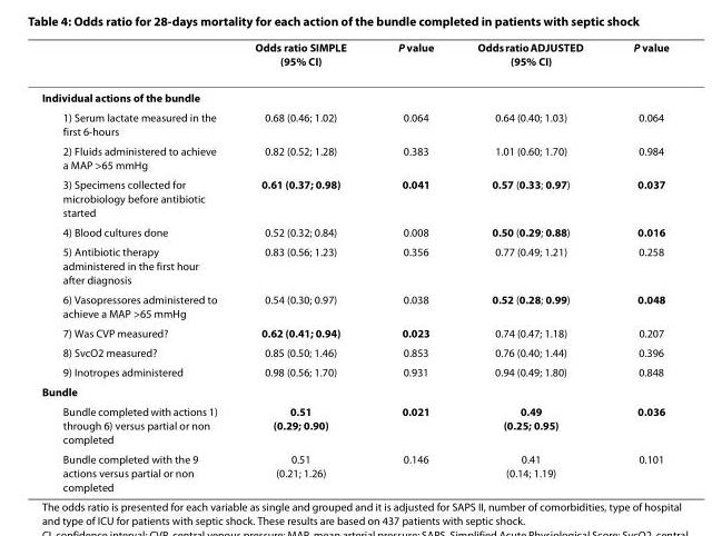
<table><thead><tr><td></td><td>Odds ratio SIMPLE (95% CI)</td><td>P value</td><td>Odds ratio ADJUSTED (95% CI)</td><td>P value</td></tr></thead><tbody><tr><td colspan="5">Individual actions of the bundle</td></tr><tr><td>1) Serum lactate measured in the first 6-hours</td><td>0.68 (0.46; 1.02)</td><td>0.064</td><td>0.64 (0.40; 1.03)</td><td>0.064</td></tr><tr><td>2) Fluids administered to achieve a MAP &gt;65 mmHg</td><td>0.82 (0.52; 1.28)</td><td>0.383</td><td>1.01 (0.60; 1.70)</td><td>0.984</td></tr><tr><td>3) Specimens collected for microbiology before antibiotic started</td><td>0.61 (0.37; 0.98)</td><td>0.041</td><td>0.57 (0.33; 0.97)</td><td>0.037</td></tr><tr><td>4) Blood cultures done</td><td>0.52 (0.32; 0.84)</td><td>0.008</td><td>0.50 (0.29; 0.88)</td><td>0.016</td></tr><tr><td>5) Antibiotic therapy administered in the first hour after diagnosis</td><td>0.83 (0.56; 1.23)</td><td>0.356</td><td>0.77 (0.49; 1.21)</td><td>0.258</td></tr><tr><td>6) Vasopressores administered to achieve a MAP &gt;65 mmHg</td><td>0.54 (0.30; 0.97)</td><td>0.038</td><td>0.52 (0.28; 0.99)</td><td>0.048</td></tr><tr><td>7) Was CVP measured?</td><td>0.62 (0.41; 0.94)</td><td>0.023</td><td>0.74 (0.47; 1.18)</td><td>0.207</td></tr><tr><td>8) SvcO2 measured?</td><td>0.85 (0.50; 1.46)</td><td>0.853</td><td>0.76 (0.40; 1.44)</td><td>0.396</td></tr><tr><td>9) Inotropes administered</td><td>0.98 (0.56; 1.70)</td><td>0.931</td><td>0.94 (0.49; 1.80)</td><td>0.848</td></tr><tr><td colspan="5">Bundle</td></tr><tr><td>Bundle completed with actions 1) through 6) versus partial or non completed</td><td>0.51 (0.29; 0.90)</td><td>0.021</td><td>0.49 (0.25; 0.95)</td><td>0.036</td></tr><tr><td>Bundle completed with the 9 actions versus partial or non completed</td><td>0.51 (0.21; 1.26)</td><td>0.146</td><td>0.41 (0.14; 1.19)</td><td>0.101</td></tr></tbody></table>